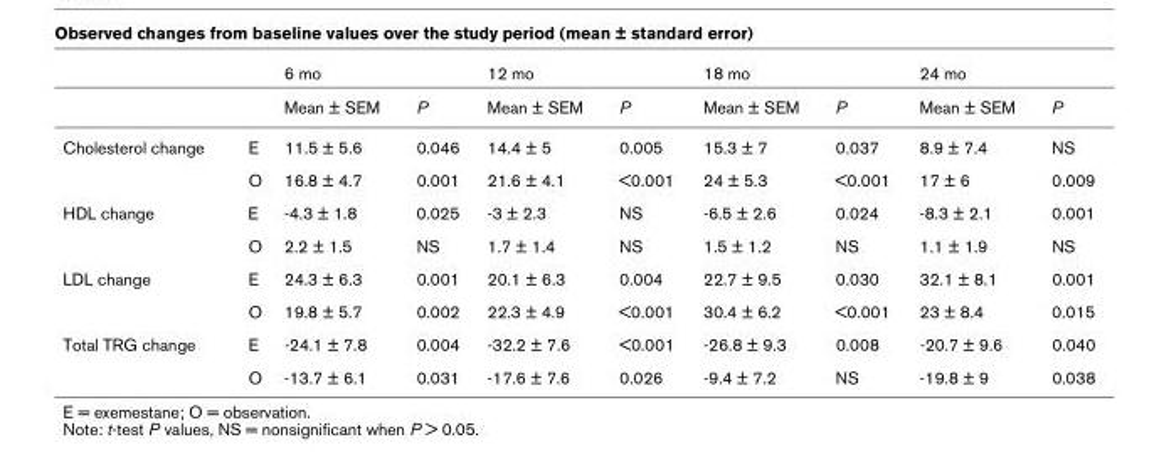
<table><thead><tr><td rowspan="2"></td><td rowspan="2"></td><td colspan="2">6 mo</td><td colspan="2">12 mo</td><td colspan="2">18 mo</td><td colspan="2">24 mo</td></tr><tr><td>Mean ± SEM</td><td>P</td><td>Mean ± SEM</td><td>P</td><td>Mean ± SEM</td><td>P</td><td>Mean ± SEM</td><td>P</td></tr></thead><tbody><tr><td rowspan="2">Cholesterol change</td><td>E</td><td>11.5 ± 5.6</td><td>0.046</td><td>14.4 ± 5</td><td>0.005</td><td>15.3 ± 7</td><td>0.037</td><td>8.9 ± 7.4</td><td>NS</td></tr><tr><td>O</td><td>16.8 ± 4.7</td><td>0.001</td><td>21.6 ± 4.1</td><td>&lt;0.001</td><td>24 ± 5.3</td><td>&lt;0.001</td><td>17 ± 6</td><td>0.009</td></tr><tr><td rowspan="2">HDL change</td><td>E</td><td>-4.3 ± 1.8</td><td>0.025</td><td>-3 ± 2.3</td><td>NS</td><td>-6.5 ± 2.6</td><td>0.024</td><td>-8.3 ± 2.1</td><td>0.001</td></tr><tr><td>O</td><td>2.2 ± 1.5</td><td>NS</td><td>1.7 ± 1.4</td><td>NS</td><td>1.5 ± 1.2</td><td>NS</td><td>1.1 ± 1.9</td><td>NS</td></tr><tr><td rowspan="2">LDL change</td><td>E</td><td>24.3 ± 6.3</td><td>0.001</td><td>20.1 ± 6.3</td><td>0.004</td><td>22.7 ± 9.5</td><td>0.030</td><td>32.1 ± 8.1</td><td>0.001</td></tr><tr><td>O</td><td>19.8 ± 5.7</td><td>0.002</td><td>22.3 ± 4.9</td><td>&lt;0.001</td><td>30.4 ± 6.2</td><td>&lt;0.001</td><td>23 ± 8.4</td><td>0.015</td></tr><tr><td rowspan="2">Total TRG change</td><td>E</td><td>-24.1 ± 7.8</td><td>0.004</td><td>-32.2 ± 7.6</td><td>&lt;0.001</td><td>-26.8 ± 9.3</td><td>0.008</td><td>-20.7 ± 9.6</td><td>0.040</td></tr><tr><td>O</td><td>-13.7 ± 6.1</td><td>0.031</td><td>-17.6 ± 7.6</td><td>0.026</td><td>-9.4 ± 7.2</td><td>NS</td><td>-19.8 ± 9</td><td>0.038</td></tr></tbody></table>